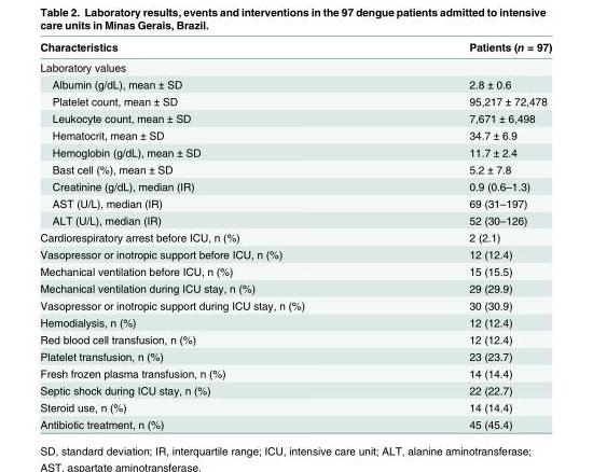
<table><thead><tr><td>Characteristics</td><td>Patients (n = 97)</td></tr></thead><tbody><tr><td colspan="2">Laboratory values</td></tr><tr><td>Albumin (g/dL), mean ± SD</td><td>2.8 ± 0.6</td></tr><tr><td>Platelet count, mean ± SD</td><td>95,217 ± 72,478</td></tr><tr><td>Leukocyte count, mean ± SD</td><td>7,671 ± 6,498</td></tr><tr><td>Hematocrit, mean ± SD</td><td>34.7 ± 6.9</td></tr><tr><td>Hemoglobin (g/dL), mean ± SD</td><td>11.7 ± 2.4</td></tr><tr><td>Bast cell (%), mean ± SD</td><td>5.2 ± 7.8</td></tr><tr><td>Creatinine (g/dL), median (IR)</td><td>0.9 (0.6–1.3)</td></tr><tr><td>AST (U/L), median (IR)</td><td>69 (31–197)</td></tr><tr><td>ALT (U/L), median (IR)</td><td>52 (30–126)</td></tr><tr><td>Cardiorespiratory arrest before ICU, n (%)</td><td>2 (2.1)</td></tr><tr><td>Vasopressor or inotropic support before ICU, n (%)</td><td>12 (12.4)</td></tr><tr><td>Mechanical ventilation before ICU, n (%)</td><td>15 (15.5)</td></tr><tr><td>Mechanical ventilation during ICU stay, n (%)</td><td>29 (29.9)</td></tr><tr><td>Vasopressor or inotropic support during ICU stay, n (%)</td><td>30 (30.9)</td></tr><tr><td>Hemodialysis, n (%)</td><td>12 (12.4)</td></tr><tr><td>Red blood cell transfusion, n (%)</td><td>12 (12.4)</td></tr><tr><td>Platelet transfusion, n (%)</td><td>23 (23.7)</td></tr><tr><td>Fresh frozen plasma transfusion, n (%)</td><td>14 (14.4)</td></tr><tr><td>Septic shock during ICU stay, n (%)</td><td>22 (22.7)</td></tr><tr><td>Steroid use, n (%)</td><td>14 (14.4)</td></tr><tr><td>Antibiotic treatment, n (%)</td><td>45 (45.4)</td></tr></tbody></table>